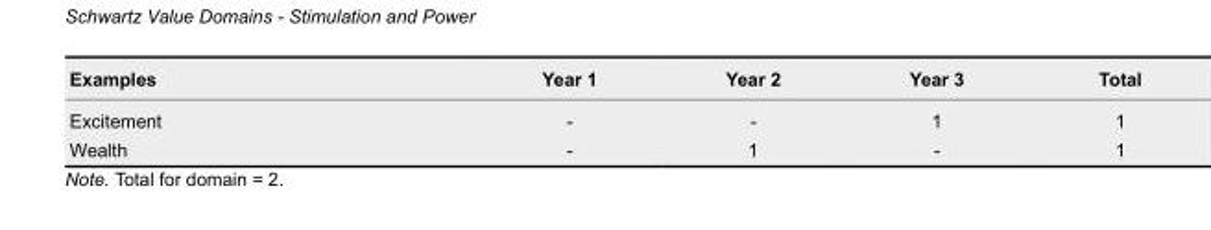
<table><thead><tr><td>Examples</td><td>Year 1</td><td>Year 2</td><td>Year 3</td><td>Total</td></tr></thead><tbody><tr><td>Excitement</td><td>-</td><td>-</td><td>1</td><td>1</td></tr><tr><td>Wealth</td><td>-</td><td>1</td><td>-</td><td>1</td></tr></tbody></table>